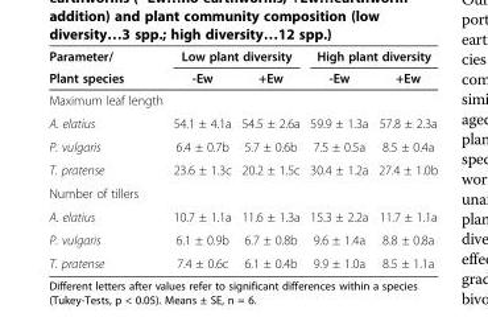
<table><thead><tr><td rowspan="2">Parameter/ Plant species</td><td colspan="2">Low plant diversity</td><td colspan="2">High plant diversity</td></tr><tr><td>-Ew</td><td>+Ew</td><td>-Ew</td><td>+Ew</td></tr></thead><tbody><tr><td colspan="5">Maximum leaf length</td></tr><tr><td>A. elatius</td><td>54.1 ± 4.1a</td><td>54.5 ± 2.6a</td><td>59.9 ± 1.3a</td><td>57.8 ± 2.3a</td></tr><tr><td>P. vulgaris</td><td>6.4 ± 0.7b</td><td>5.7 ± 0.6b</td><td>7.5 ± 0.5a</td><td>8.5 ± 0.4a</td></tr><tr><td>T. pratense</td><td>23.6 ± 1.3c</td><td>20.2 ± 1.5c</td><td>30.4 ± 1.2a</td><td>27.4 ± 1.0b</td></tr><tr><td colspan="5">Number of tillers</td></tr><tr><td>A. elatius</td><td>10.7 ± 1.1a</td><td>11.6 ± 1.3a</td><td>15.3 ± 2.2a</td><td>11.7 ± 1.1a</td></tr><tr><td>P. vulgaris</td><td>6.1 ± 0.9b</td><td>6.7 ± 0.8b</td><td>9.6 ± 1.4a</td><td>8.8 ± 0.8a</td></tr><tr><td>T. pratense</td><td>7.4 ± 0.6c</td><td>6.1 ± 0.4b</td><td>9.9 ± 1.0a</td><td>8.5 ± 1.1a</td></tr></tbody></table>